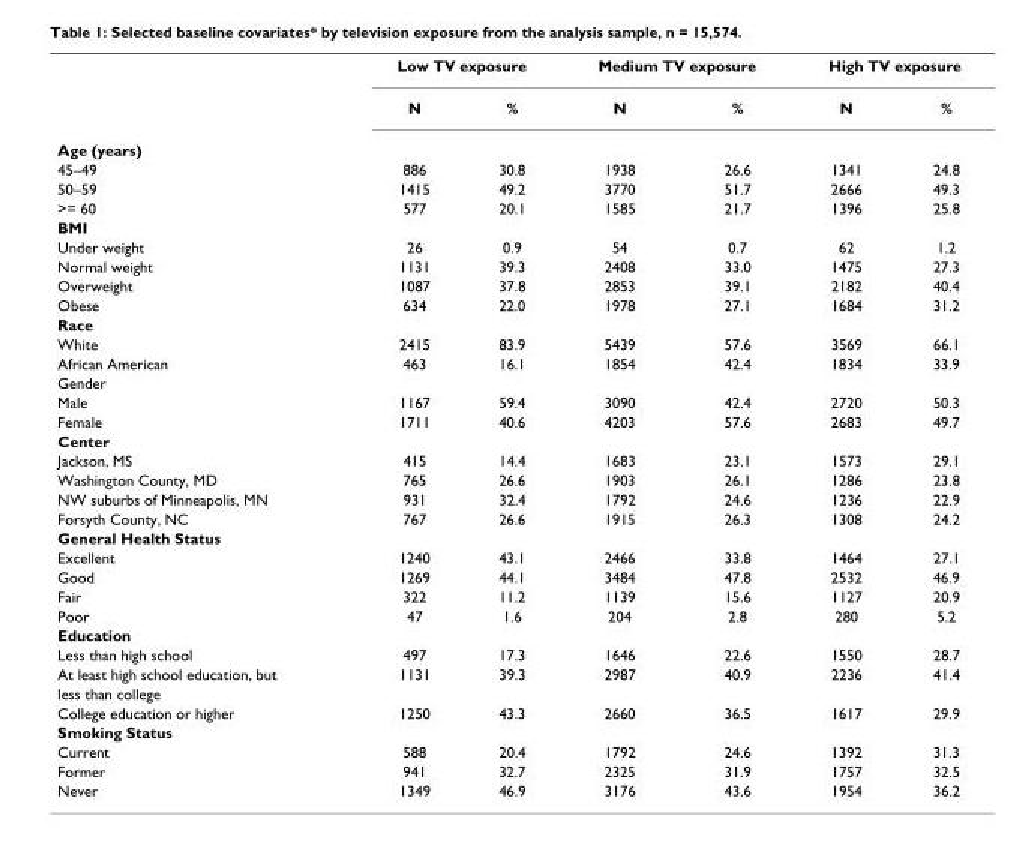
<table><thead><tr><td rowspan="2"></td><td colspan="2">Low TV exposure</td><td colspan="2">Medium TV exposure</td><td colspan="2">High TV exposure</td></tr><tr><td>N</td><td>%</td><td>N</td><td>%</td><td>N</td><td>%</td></tr></thead><tbody><tr><td colspan="7">Age (years)</td></tr><tr><td>45–49</td><td>886</td><td>30.8</td><td>1938</td><td>26.6</td><td>1341</td><td>24.8</td></tr><tr><td>50–59</td><td>1415</td><td>49.2</td><td>3770</td><td>51.7</td><td>2666</td><td>49.3</td></tr><tr><td>&gt;= 60</td><td>577</td><td>20.1</td><td>1585</td><td>21.7</td><td>1396</td><td>25.8</td></tr><tr><td colspan="7">BMI</td></tr><tr><td>Under weight</td><td>26</td><td>0.9</td><td>54</td><td>0.7</td><td>62</td><td>1.2</td></tr><tr><td>Normal weight</td><td>1131</td><td>39.3</td><td>2408</td><td>33.0</td><td>1475</td><td>27.3</td></tr><tr><td>Overweight</td><td>1087</td><td>37.8</td><td>2853</td><td>39.1</td><td>2182</td><td>40.4</td></tr><tr><td>Obese</td><td>634</td><td>22.0</td><td>1978</td><td>27.1</td><td>1684</td><td>31.2</td></tr><tr><td colspan="7">Race</td></tr><tr><td>White</td><td>2415</td><td>83.9</td><td>5439</td><td>57.6</td><td>3569</td><td>66.1</td></tr><tr><td>African American</td><td>463</td><td>16.1</td><td>1854</td><td>42.4</td><td>1834</td><td>33.9</td></tr><tr><td colspan="7">Gender</td></tr><tr><td>Male</td><td>1167</td><td>59.4</td><td>3090</td><td>42.4</td><td>2720</td><td>50.3</td></tr><tr><td>Female</td><td>1711</td><td>40.6</td><td>4203</td><td>57.6</td><td>2683</td><td>49.7</td></tr><tr><td colspan="7">Center</td></tr><tr><td>Jackson, MS</td><td>415</td><td>14.4</td><td>1683</td><td>23.1</td><td>1573</td><td>29.1</td></tr><tr><td>Washington County, MD</td><td>765</td><td>26.6</td><td>1903</td><td>26.1</td><td>1286</td><td>23.8</td></tr><tr><td>NW suburbs of Minneapolis, MN</td><td>931</td><td>32.4</td><td>1792</td><td>24.6</td><td>1236</td><td>22.9</td></tr><tr><td>Forsyth County, NC</td><td>767</td><td>26.6</td><td>1915</td><td>26.3</td><td>1308</td><td>24.2</td></tr><tr><td colspan="7">General Health Status</td></tr><tr><td>Excellent</td><td>1240</td><td>43.1</td><td>2466</td><td>33.8</td><td>1464</td><td>27.1</td></tr><tr><td>Good</td><td>1269</td><td>44.1</td><td>3484</td><td>47.8</td><td>2532</td><td>46.9</td></tr><tr><td>Fair</td><td>322</td><td>11.2</td><td>1139</td><td>15.6</td><td>1127</td><td>20.9</td></tr><tr><td>Poor</td><td>47</td><td>1.6</td><td>204</td><td>2.8</td><td>280</td><td>5.2</td></tr><tr><td colspan="7">Education</td></tr><tr><td>Less than high school</td><td>497</td><td>17.3</td><td>1646</td><td>22.6</td><td>1550</td><td>28.7</td></tr><tr><td>At least high school education, but</td><td>1131</td><td>39.3</td><td>2987</td><td>40.9</td><td>2236</td><td>41.4</td></tr><tr><td colspan="7">less than college</td></tr><tr><td>College education or higher</td><td>1250</td><td>43.3</td><td>2660</td><td>36.5</td><td>1617</td><td>29.9</td></tr><tr><td colspan="7">Smoking Status</td></tr><tr><td>Current</td><td>588</td><td>20.4</td><td>1792</td><td>24.6</td><td>1392</td><td>31.3</td></tr><tr><td>Former</td><td>941</td><td>32.7</td><td>2325</td><td>31.9</td><td>1757</td><td>32.5</td></tr><tr><td>Never</td><td>1349</td><td>46.9</td><td>3176</td><td>43.6</td><td>1954</td><td>36.2</td></tr></tbody></table>